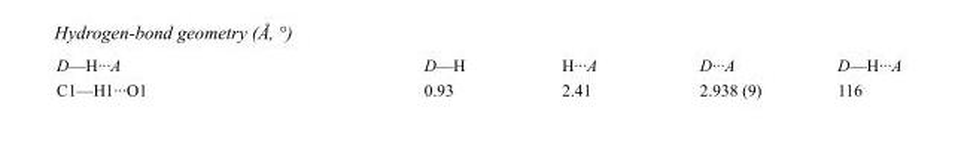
<table><tbody><tr><td>D—H···A</td><td>D—H</td><td>H···A</td><td>D···A</td><td>D—H···A</td></tr><tr><td>C1—H1···O1</td><td>0.93</td><td>2.41</td><td>2.938 (9)</td><td>116</td></tr></tbody></table>